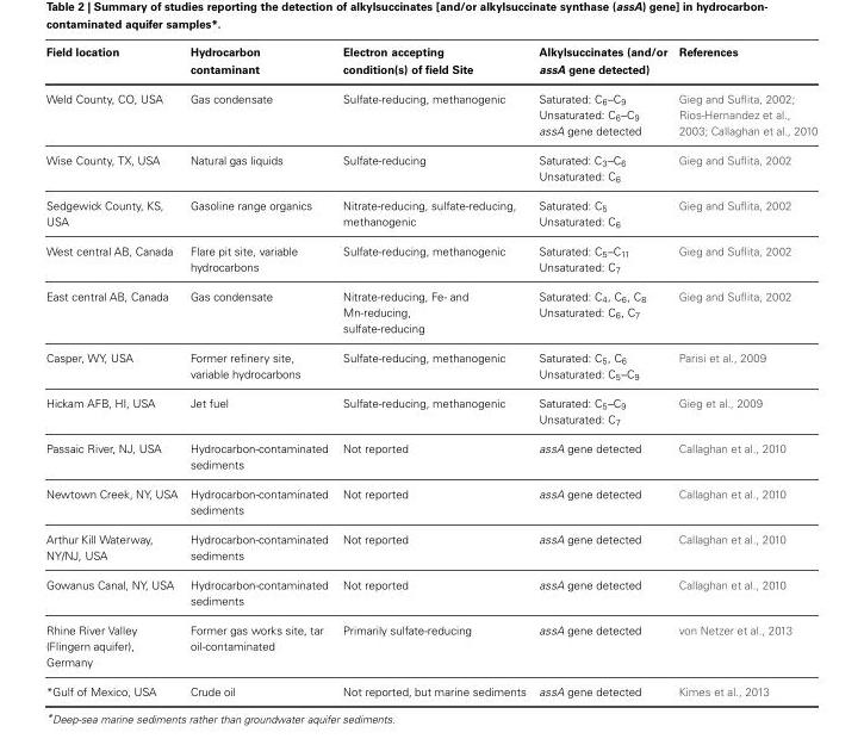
<table><thead><tr><td>Field location</td><td>Hydrocarbon contaminant</td><td>Electron accepting condition(s) of field Site</td><td>Alkylsuccinates (and/or assA gene detected)</td><td>References</td></tr></thead><tbody><tr><td>Weld County, CO, USA</td><td>Gas condensate</td><td>Sulfate-reducing, methanogenic</td><td>Saturated: C<sub>6</sub>–C<sub>9</sub> Unsaturated: C<sub>6</sub>–C<sub>9</sub> assA gene detected</td><td>Gieg and Suflita, 2002; Rios-Hernandez et al., 2003; Callaghan et al., 2010</td></tr><tr><td>Wise County, TX, USA</td><td>Natural gas liquids</td><td>Sulfate-reducing</td><td>Saturated: C<sub>3</sub>–C<sub>6</sub> Unsaturated: C<sub>6</sub></td><td>Gieg and Suflita, 2002</td></tr><tr><td>Sedgewick County, KS, USA</td><td>Gasoline range organics</td><td>Nitrate-reducing, sulfate-reducing, methanogenic</td><td>Saturated: C<sub>5</sub> Unsaturated: C<sub>6</sub></td><td>Gieg and Suflita, 2002</td></tr><tr><td>West central AB, Canada</td><td>Flare pit site, variable hydrocarbons</td><td>Sulfate-reducing, methanogenic</td><td>Saturated: C<sub>5</sub>–C<sub>11</sub> Unsaturated: C<sub>7</sub></td><td>Gieg and Suflita, 2002</td></tr><tr><td>East central AB, Canada</td><td>Gas condensate</td><td>Nitrate-reducing, Fe- and Mn-reducing, sulfate-reducing</td><td>Saturated: C<sub>4</sub>, C<sub>6</sub>, C<sub>8</sub> Unsaturated: C<sub>6</sub>, C<sub>7</sub></td><td>Gieg and Suflita, 2002</td></tr><tr><td>Casper, WY, USA</td><td>Former refinery site, variable hydrocarbons</td><td>Sulfate-reducing, methanogenic</td><td>Saturated: C<sub>5</sub>, C<sub>6</sub> Unsaturated: C<sub>5</sub>–C<sub>9</sub></td><td>Parisi et al., 2009</td></tr><tr><td>Hickam AFB, HI, USA</td><td>Jet fuel</td><td>Sulfate-reducing, methanogenic</td><td>Saturated: C<sub>5</sub>–C<sub>9</sub> Unsaturated: C<sub>7</sub></td><td>Gieg et al., 2009</td></tr><tr><td>Passaic River, NJ, USA</td><td>Hydrocarbon-contaminated sediments</td><td>Not reported</td><td>assA gene detected</td><td>Callaghan et al., 2010</td></tr><tr><td>Newtown Creek, NY, USA</td><td>Hydrocarbon-contaminated sediments</td><td>Not reported</td><td>assA gene detected</td><td>Callaghan et al., 2010</td></tr><tr><td>Arthur Kill Waterway, NY/NJ, USA</td><td>Hydrocarbon-contaminated sediments</td><td>Not reported</td><td>assA gene detected</td><td>Callaghan et al., 2010</td></tr><tr><td>Gowanus Canal, NY, USA</td><td>Hydrocarbon-contaminated sediments</td><td>Not reported</td><td>assA gene detected</td><td>Callaghan et al., 2010</td></tr><tr><td>Rhine River Valley (Flingern aquifer), Germany</td><td>Former gas works site, tar oil-contaminated</td><td>Primarily sulfate-reducing</td><td>assA gene detected</td><td>von Netzer et al., 2013</td></tr><tr><td>*Gulf of Mexico, USA</td><td>Crude oil</td><td>Not reported, but marine sediments</td><td>assA gene detected</td><td>Kimes et al., 2013</td></tr></tbody></table>